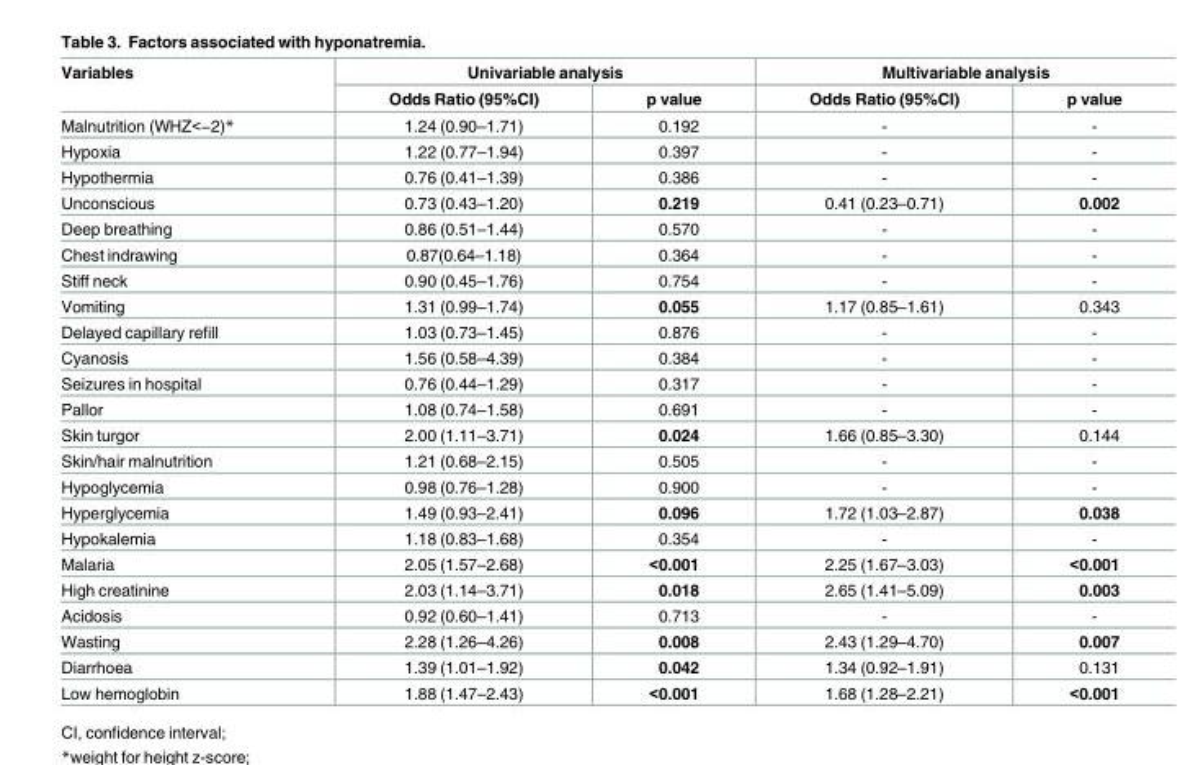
<table><thead><tr><td rowspan="2">Variables</td><td colspan="2">Univariable analysis</td><td colspan="2">Multivariable analysis</td></tr><tr><td>Odds Ratio (95%CI)</td><td>p value</td><td>Odds Ratio (95%CI)</td><td>p value</td></tr></thead><tbody><tr><td>Malnutrition (WHZ&lt;−2)*</td><td>1.24 (0.90–1.71)</td><td>0.192</td><td>-</td><td>-</td></tr><tr><td>Hypoxia</td><td>1.22 (0.77–1.94)</td><td>0.397</td><td>-</td><td>-</td></tr><tr><td>Hypothermia</td><td>0.76 (0.41–1.39)</td><td>0.386</td><td>-</td><td>-</td></tr><tr><td>Unconscious</td><td>0.73 (0.43–1.20)</td><td>0.219</td><td>0.41 (0.23–0.71)</td><td>0.002</td></tr><tr><td>Deep breathing</td><td>0.86 (0.51–1.44)</td><td>0.570</td><td>-</td><td>-</td></tr><tr><td>Chest indrawing</td><td>0.87(0.64–1.18)</td><td>0.364</td><td>-</td><td>-</td></tr><tr><td>Stiff neck</td><td>0.90 (0.45–1.76)</td><td>0.754</td><td>-</td><td>-</td></tr><tr><td>Vomiting</td><td>1.31 (0.99–1.74)</td><td>0.055</td><td>1.17 (0.85–1.61)</td><td>0.343</td></tr><tr><td>Delayed capillary refill</td><td>1.03 (0.73–1.45)</td><td>0.876</td><td>-</td><td>-</td></tr><tr><td>Cyanosis</td><td>1.56 (0.58–4.39)</td><td>0.384</td><td>-</td><td>-</td></tr><tr><td>Seizures in hospital</td><td>0.76 (0.44–1.29)</td><td>0.317</td><td>-</td><td>-</td></tr><tr><td>Pallor</td><td>1.08 (0.74–1.58)</td><td>0.691</td><td>-</td><td>-</td></tr><tr><td>Skin turgor</td><td>2.00 (1.11–3.71)</td><td>0.024</td><td>1.66 (0.85–3.30)</td><td>0.144</td></tr><tr><td>Skin/hair malnutrition</td><td>1.21 (0.68–2.15)</td><td>0.505</td><td>-</td><td>-</td></tr><tr><td>Hypoglycemia</td><td>0.98 (0.76–1.28)</td><td>0.900</td><td>-</td><td>-</td></tr><tr><td>Hyperglycemia</td><td>1.49 (0.93–2.41)</td><td>0.096</td><td>1.72 (1.03–2.87)</td><td>0.038</td></tr><tr><td>Hypokalemia</td><td>1.18 (0.83–1.68)</td><td>0.354</td><td>-</td><td>-</td></tr><tr><td>Malaria</td><td>2.05 (1.57–2.68)</td><td>&lt;0.001</td><td>2.25 (1.67–3.03)</td><td>&lt;0.001</td></tr><tr><td>High creatinine</td><td>2.03 (1.14–3.71)</td><td>0.018</td><td>2.65 (1.41–5.09)</td><td>0.003</td></tr><tr><td>Acidosis</td><td>0.92 (0.60–1.41)</td><td>0.713</td><td>-</td><td>-</td></tr><tr><td>Wasting</td><td>2.28 (1.26–4.26)</td><td>0.008</td><td>2.43 (1.29–4.70)</td><td>0.007</td></tr><tr><td>Diarrhoea</td><td>1.39 (1.01–1.92)</td><td>0.042</td><td>1.34 (0.92–1.91)</td><td>0.131</td></tr><tr><td>Low hemoglobin</td><td>1.88 (1.47–2.43)</td><td>&lt;0.001</td><td>1.68 (1.28–2.21)</td><td>&lt;0.001</td></tr></tbody></table>